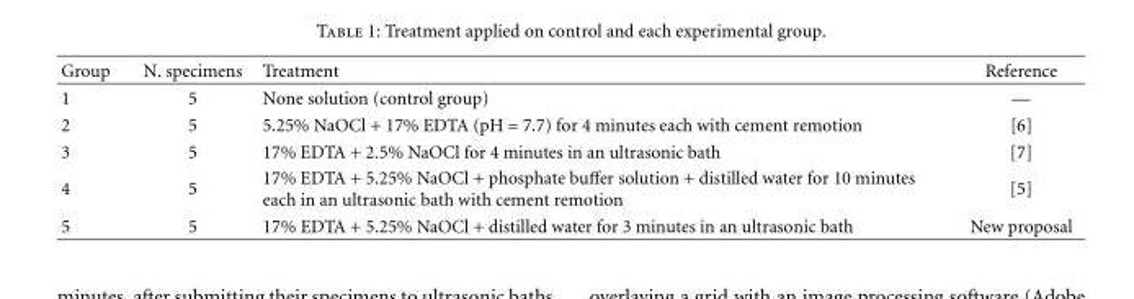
<table><thead><tr><td>Group</td><td>N. specimens</td><td>Treatment</td><td>Reference</td></tr></thead><tbody><tr><td>1</td><td>5</td><td>None solution (control group)</td><td>—</td></tr><tr><td>2</td><td>5</td><td>5.25% NaOCl + 17% EDTA (pH = 7.7) for 4 minutes each with cement remotion</td><td>[6]</td></tr><tr><td>3</td><td>5</td><td>17% EDTA + 2.5% NaOCl for 4 minutes in an ultrasonic bath</td><td>[7]</td></tr><tr><td>4</td><td>5</td><td>17% EDTA + 5.25% NaOCl + phosphate buffer solution + distilled water for 10 minutes each in an ultrasonic bath with cement remotion</td><td>[5]</td></tr><tr><td>5</td><td>5</td><td>17% EDTA + 5.25% NaOCl + distilled water for 3 minutes in an ultrasonic bath</td><td>New proposal</td></tr></tbody></table>